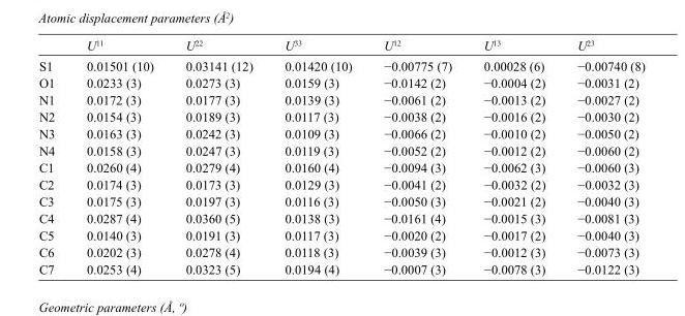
<table><thead><tr><td></td><td>U<sup>11</sup></td><td>U<sup>22</sup></td><td>U<sup>33</sup></td><td>U<sup>12</sup></td><td>U<sup>13</sup></td><td>U<sup>23</sup></td></tr></thead><tbody><tr><td>S1</td><td>0.01501 (10)</td><td>0.03141 (12)</td><td>0.01420 (10)</td><td>−0.00775 (7)</td><td>0.00028 (6)</td><td>−0.00740 (8)</td></tr><tr><td>O1</td><td>0.0233 (3)</td><td>0.0273 (3)</td><td>0.0159 (3)</td><td>−0.0142 (2)</td><td>−0.0004 (2)</td><td>−0.0031 (2)</td></tr><tr><td>N1</td><td>0.0172 (3)</td><td>0.0177 (3)</td><td>0.0139 (3)</td><td>−0.0061 (2)</td><td>−0.0013 (2)</td><td>−0.0027 (2)</td></tr><tr><td>N2</td><td>0.0154 (3)</td><td>0.0189 (3)</td><td>0.0117 (3)</td><td>−0.0038 (2)</td><td>−0.0016 (2)</td><td>−0.0030 (2)</td></tr><tr><td>N3</td><td>0.0163 (3)</td><td>0.0242 (3)</td><td>0.0109 (3)</td><td>−0.0066 (2)</td><td>−0.0010 (2)</td><td>−0.0050 (2)</td></tr><tr><td>N4</td><td>0.0158 (3)</td><td>0.0247 (3)</td><td>0.0119 (3)</td><td>−0.0052 (2)</td><td>−0.0012 (2)</td><td>−0.0060 (2)</td></tr><tr><td>C1</td><td>0.0260 (4)</td><td>0.0279 (4)</td><td>0.0160 (4)</td><td>−0.0094 (3)</td><td>−0.0062 (3)</td><td>−0.0060 (3)</td></tr><tr><td>C2</td><td>0.0174 (3)</td><td>0.0173 (3)</td><td>0.0129 (3)</td><td>−0.0041 (2)</td><td>−0.0032 (2)</td><td>−0.0032 (3)</td></tr><tr><td>C3</td><td>0.0175 (3)</td><td>0.0197 (3)</td><td>0.0116 (3)</td><td>−0.0050 (3)</td><td>−0.0021 (2)</td><td>−0.0040 (3)</td></tr><tr><td>C4</td><td>0.0287 (4)</td><td>0.0360 (5)</td><td>0.0138 (3)</td><td>−0.0161 (4)</td><td>−0.0015 (3)</td><td>−0.0081 (3)</td></tr><tr><td>C5</td><td>0.0140 (3)</td><td>0.0191 (3)</td><td>0.0117 (3)</td><td>−0.0020 (2)</td><td>−0.0017 (2)</td><td>−0.0040 (3)</td></tr><tr><td>C6</td><td>0.0202 (3)</td><td>0.0278 (4)</td><td>0.0118 (3)</td><td>−0.0039 (3)</td><td>−0.0012 (3)</td><td>−0.0073 (3)</td></tr><tr><td>C7</td><td>0.0253 (4)</td><td>0.0323 (5)</td><td>0.0194 (4)</td><td>−0.0007 (3)</td><td>−0.0078 (3)</td><td>−0.0122 (3)</td></tr></tbody></table>